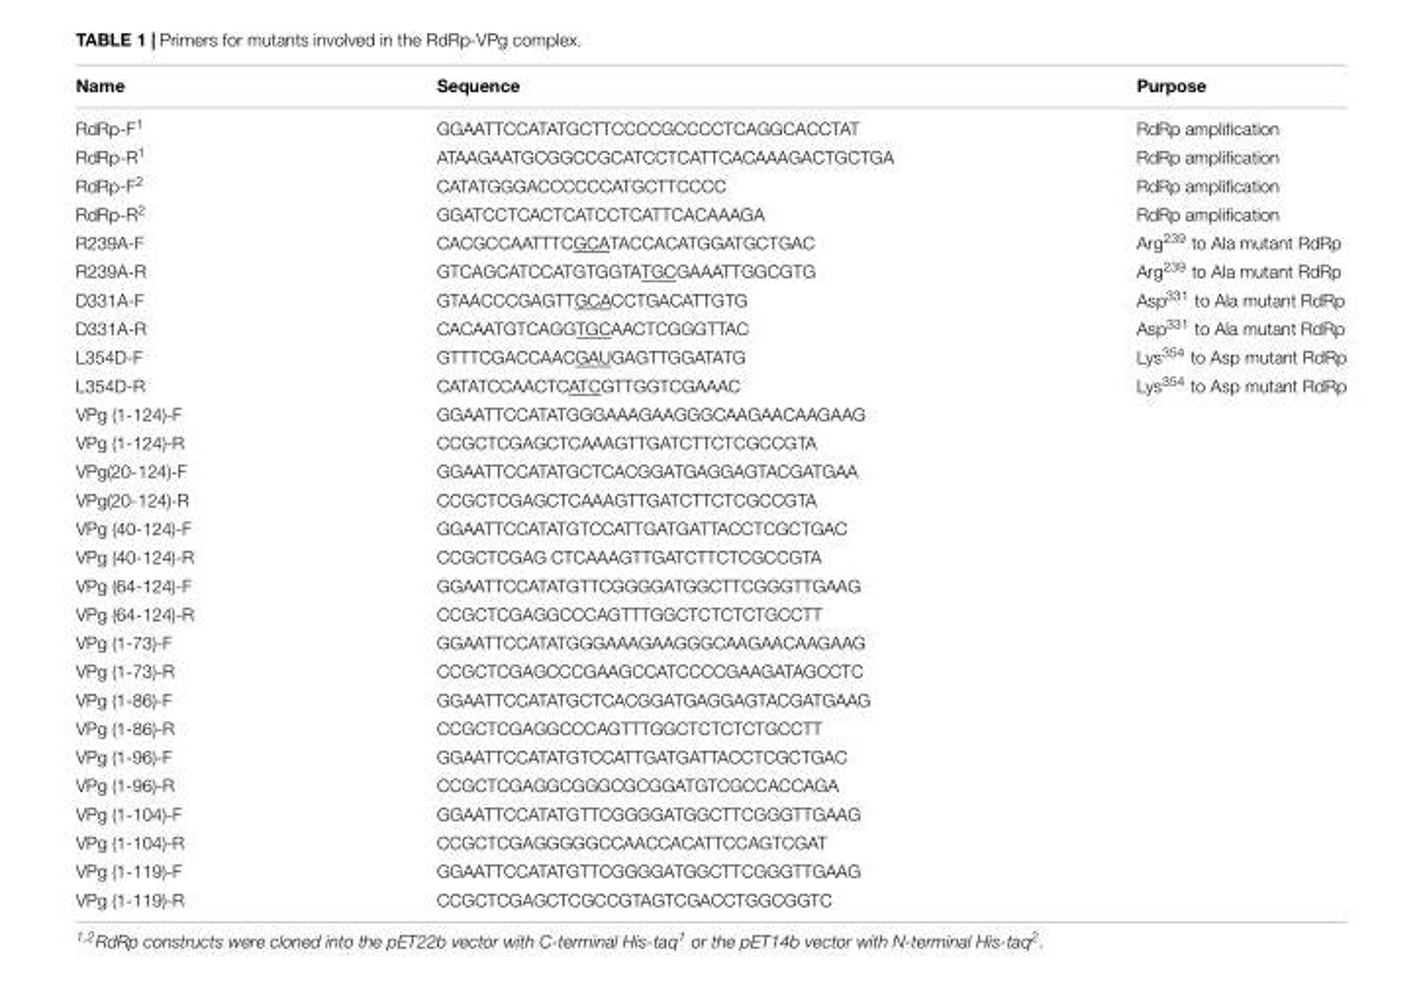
<table><thead><tr><td>Name</td><td>Sequence</td><td>Purpose</td></tr></thead><tbody><tr><td>RdRp-F<sup>1</sup></td><td>GGAATTCCATATGCTTCCCCGCCCCTCAGGCACCTAT</td><td>RdRp amplification</td></tr><tr><td>RdRp-R<sup>1</sup></td><td>ATAAGAATGCGGCCGCATCCTCATTCACAAAGACTGCTGA</td><td>RdRp amplification</td></tr><tr><td>RdRp-F<sup>2</sup></td><td>CATATGGGACCCCCCATGCTTCCCC</td><td>RdRp amplification</td></tr><tr><td>RdRp-R<sup>2</sup></td><td>GGATCCTCACTCATCCTCATTCACAAAGA</td><td>RdRp amplification</td></tr><tr><td>R239A-F</td><td>CACGCCAATTTCGCATACCACATGGATGCTGAC</td><td>Arg<sup>239</sup> to Ala mutant RdRp</td></tr><tr><td>R239A-R</td><td>GTCAGCATCCATGTGGTATGCGAAATTGGCGTG</td><td>Arg<sup>239</sup> to Ala mutant RdRp</td></tr><tr><td>D331A-F</td><td>GTAACCCGAGTTGCACCTGACATTGTG</td><td>Asp<sup>331</sup> to Ala mutant RdRp</td></tr><tr><td>D331A-R</td><td>CACAATGTCAGGTGCAACTCGGGTTAC</td><td>Asp<sup>331</sup> to Ala mutant RdRp</td></tr><tr><td>L354D-F</td><td>GTTTCGACCAACGAUGAGTTGGATATG</td><td>Lys<sup>354</sup> to Asp mutant RdRp</td></tr><tr><td>L354D-R</td><td>CATATCCAACTCATCGTTGGTCGAAAC</td><td>Lys<sup>354</sup> to Asp mutant RdRp</td></tr><tr><td>VPg (1-124)-F</td><td>GGAATTCCATATGGGAAAGAAGGGCAAGAACAAGAAG</td><td></td></tr><tr><td>VPg (1-124)-R</td><td>CCGCTCGAGCTCAAAGTTGATCTTCTCGCCGTA</td><td></td></tr><tr><td>VPg(20-124)-F</td><td>GGAATTCCATATGCTCACGGATGAGGAGTACGATGAA</td><td></td></tr><tr><td>VPg(20-124)-R</td><td>CCGCTCGAGCTCAAAGTTGATCTTCTCGCCGTA</td><td></td></tr><tr><td>VPg (40-124)-F</td><td>GGAATTCCATATGTCCATTGATGATTACCTCGCTGAC</td><td></td></tr><tr><td>VPg (40-124)-R</td><td>CCGCTCGAG CTCAAAGTTGATCTTCTCGCCGTA</td><td></td></tr><tr><td>VPg (64-124)-F</td><td>GGAATTCCATATGTTCGGGGATGGCTTCGGGTTGAAG</td><td></td></tr><tr><td>VPg (64-124)-R</td><td>CCGCTCGAGGCCCAGTTTGGCTCTCTCTGCCTT</td><td></td></tr><tr><td>VPg (1-73)-F</td><td>GGAATTCCATATGGGAAAGAAGGGCAAGAACAAGAAG</td><td></td></tr><tr><td>VPg (1-73)-R</td><td>CCGCTCGAGCCCGAAGCCATCCCCGAAGATAGCCTC</td><td></td></tr><tr><td>VPg (1-86)-F</td><td>GGAATTCCATATGCTCACGGATGAGGAGTACGATGAAG</td><td></td></tr><tr><td>VPg (1-86)-R</td><td>CCGCTCGAGGCCCAGTTTGGCTCTCTCTGCCTT</td><td></td></tr><tr><td>VPg (1-96)-F</td><td>GGAATTCCATATGTCCATTGATGATTACCTCGCTGAC</td><td></td></tr><tr><td>VPg (1-96)-R</td><td>CCGCTCGAGGCGGGCGCGGATGTCGCCACCAGA</td><td></td></tr><tr><td>VPg (1-104)-F</td><td>GGAATTCCATATGTTCGGGGATGGCTTCGGGTTGAAG</td><td></td></tr><tr><td>VPg (1-104)-R</td><td>CCGCTCGAGGGGGCCAACCACATTCCAGTCGAT</td><td></td></tr><tr><td>VPg (1-119)-F</td><td>GGAATTCCATATGTTCGGGGATGGCTTCGGGTTGAAG</td><td></td></tr><tr><td>VPg (1-119)-R</td><td>CCGCTCGAGCTCGCCGTAGTCGACCTGGCGGTC</td><td></td></tr></tbody></table>